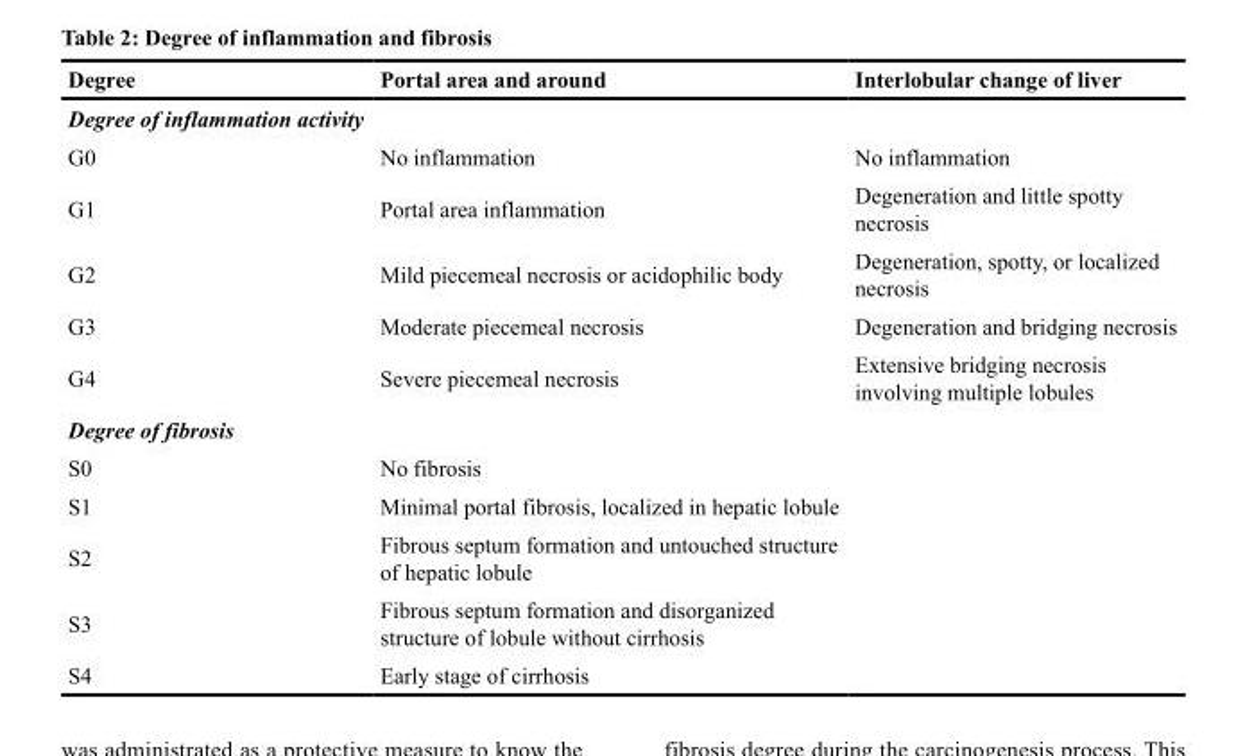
<table><thead><tr><td>Degree</td><td>Portal area and around</td><td>Interlobular change of liver</td></tr></thead><tbody><tr><td colspan="3">Degree of inflammation activity</td></tr><tr><td>G0</td><td>No inflammation</td><td>No inflammation</td></tr><tr><td>G1</td><td>Portal area inflammation</td><td>Degeneration and little spotty necrosis</td></tr><tr><td>G2</td><td>Mild piecemeal necrosis or acidophilic body</td><td>Degeneration, spotty, or localized necrosis</td></tr><tr><td>G3</td><td>Moderate piecemeal necrosis</td><td>Degeneration and bridging necrosis</td></tr><tr><td>G4</td><td>Severe piecemeal necrosis</td><td>Extensive bridging necrosis involving multiple lobules</td></tr><tr><td colspan="3">Degree of fibrosis</td></tr><tr><td>S0</td><td>No fibrosis</td><td></td></tr><tr><td>S1</td><td>Minimal portal fibrosis, localized in hepatic lobule</td><td></td></tr><tr><td>S2</td><td>Fibrous septum formation and untouched structure of hepatic lobule</td><td></td></tr><tr><td>S3</td><td>Fibrous septum formation and disorganized structure of lobule without cirrhosis</td><td></td></tr><tr><td>S4</td><td>Early stage of cirrhosis</td><td></td></tr></tbody></table>